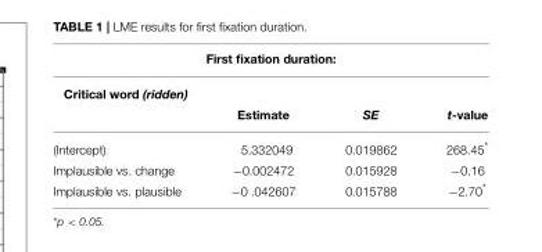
<table><thead><tr><td rowspan="2" colspan="4">First fixation duration: Critical word (ridden)</td></tr><tr></tr><tr><td></td><td>Estimate</td><td>SE</td><td>t-value</td></tr></thead><tbody><tr><td>(Intercept)</td><td>5.332049</td><td>0.019862</td><td>268.45*</td></tr><tr><td>Implausible vs. change</td><td>−0.002472</td><td>0.015928</td><td>−0.16</td></tr><tr><td>Implausible vs. plausible</td><td>−0 .042607</td><td>0.015788</td><td>−2.70*</td></tr></tbody></table>